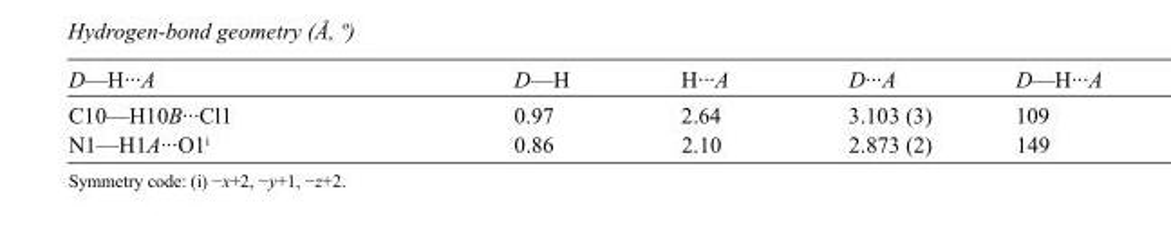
<table><tbody><tr><td>D—H···A</td><td>D—H</td><td>H···A</td><td>D···A</td><td>D—H···A</td></tr><tr><td>C10—H10B···Cl1</td><td>0.97</td><td>2.64</td><td>3.103 (3)</td><td>109</td></tr><tr><td>N1—H1A···O1<sup>i</sup></td><td>0.86</td><td>2.10</td><td>2.873 (2)</td><td>149</td></tr></tbody></table>